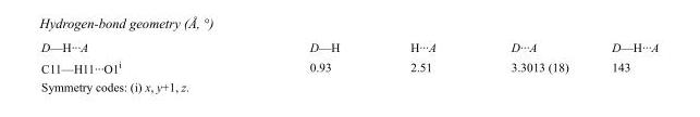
<table><tbody><tr><td>D—H···A</td><td>D—H</td><td>H···A</td><td>D···A</td><td>D—H···A</td></tr><tr><td>C11—H11···O1<sup>i</sup></td><td>0.93</td><td>2.51</td><td>3.3013 (18)</td><td>143</td></tr></tbody></table>